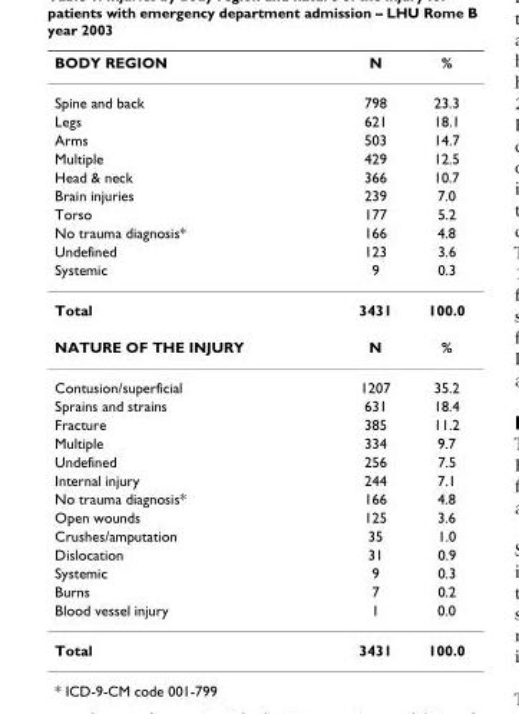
<table><thead><tr><td>BODY REGION</td><td>N</td><td>%</td></tr></thead><tbody><tr><td>Spine and back</td><td>798</td><td>23.3</td></tr><tr><td>Legs</td><td>621</td><td>18.1</td></tr><tr><td>Arms</td><td>503</td><td>14.7</td></tr><tr><td>Multiple</td><td>429</td><td>12.5</td></tr><tr><td>Head &amp; neck</td><td>366</td><td>10.7</td></tr><tr><td>Brain injuries</td><td>239</td><td>7.0</td></tr><tr><td>Torso</td><td>177</td><td>5.2</td></tr><tr><td>No trauma diagnosis*</td><td>166</td><td>4.8</td></tr><tr><td>Undefined</td><td>123</td><td>3.6</td></tr><tr><td>Systemic</td><td>9</td><td>0.3</td></tr><tr><td>Total</td><td>3431</td><td>100.0</td></tr><tr><td>NATURE OF THE INJURY</td><td>N</td><td>%</td></tr><tr><td>Contusion/superficial</td><td>1207</td><td>35.2</td></tr><tr><td>Sprains and strains</td><td>631</td><td>18.4</td></tr><tr><td>Fracture</td><td>385</td><td>11.2</td></tr><tr><td>Multiple</td><td>334</td><td>9.7</td></tr><tr><td>Undefined</td><td>256</td><td>7.5</td></tr><tr><td>Internal injury</td><td>244</td><td>7.1</td></tr><tr><td>No trauma diagnosis*</td><td>166</td><td>4.8</td></tr><tr><td>Open wounds</td><td>125</td><td>3.6</td></tr><tr><td>Crushes/amputation</td><td>35</td><td>1.0</td></tr><tr><td>Dislocation</td><td>31</td><td>0.9</td></tr><tr><td>Systemic</td><td>9</td><td>0.3</td></tr><tr><td>Burns</td><td>7</td><td>0.2</td></tr><tr><td>Blood vessel injury</td><td>1</td><td>0.0</td></tr><tr><td>Total</td><td>3431</td><td>100.0</td></tr></tbody></table>